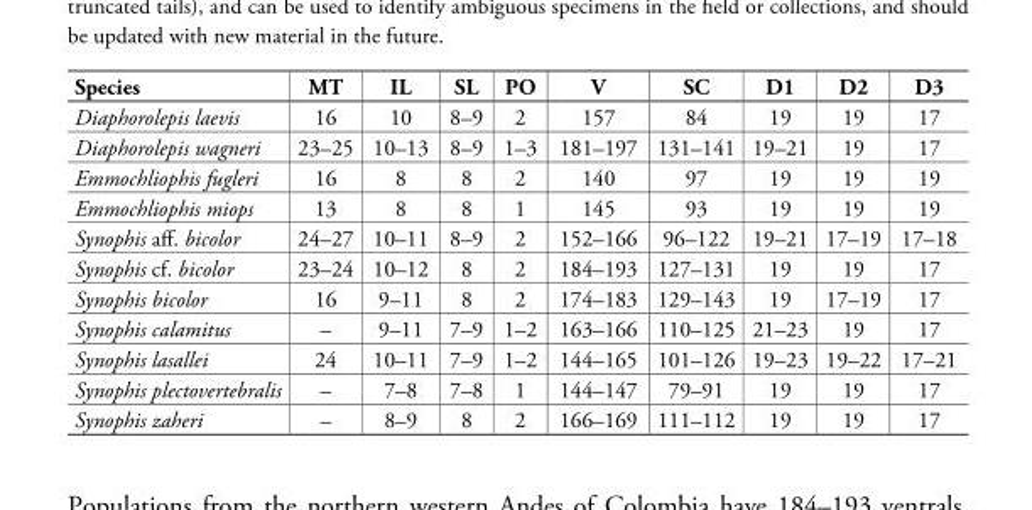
<table><thead><tr><td>Species</td><td>MT</td><td>IL</td><td>SL</td><td>PO</td><td>V</td><td>SC</td><td>D1</td><td>D2</td><td>D3</td></tr></thead><tbody><tr><td>Diaphorolepis laevis</td><td>16</td><td>10</td><td>8–9</td><td>2</td><td>157</td><td>84</td><td>19</td><td>19</td><td>17</td></tr><tr><td>Diaphorolepis wagneri</td><td>23–25</td><td>10–13</td><td>8–9</td><td>1–3</td><td>181–197</td><td>131–141</td><td>19–21</td><td>19</td><td>17</td></tr><tr><td>Emmochliophis fugleri</td><td>16</td><td>8</td><td>8</td><td>2</td><td>140</td><td>97</td><td>19</td><td>19</td><td>19</td></tr><tr><td>Emmochliophis miops</td><td>13</td><td>8</td><td>8</td><td>1</td><td>145</td><td>93</td><td>19</td><td>19</td><td>19</td></tr><tr><td>Synophis aff. bicolor</td><td>24–27</td><td>10–11</td><td>8–9</td><td>2</td><td>152–166</td><td>96–122</td><td>19–21</td><td>17–19</td><td>17–18</td></tr><tr><td>Synophis cf. bicolor</td><td>23–24</td><td>10–12</td><td>8</td><td>2</td><td>184–193</td><td>127–131</td><td>19</td><td>19</td><td>17</td></tr><tr><td>Synophis bicolor</td><td>16</td><td>9–11</td><td>8</td><td>2</td><td>174–183</td><td>129–143</td><td>19</td><td>17–19</td><td>17</td></tr><tr><td>Synophis calamitus</td><td>–</td><td>9–11</td><td>7–9</td><td>1–2</td><td>163–166</td><td>110–125</td><td>21–23</td><td>19</td><td>17</td></tr><tr><td>Synophis lasallei</td><td>24</td><td>10–11</td><td>7–9</td><td>1–2</td><td>144–165</td><td>101–126</td><td>19–23</td><td>19–22</td><td>17–21</td></tr><tr><td>Synophis plectovertebralis</td><td>–</td><td>7–8</td><td>7–8</td><td>1</td><td>144–147</td><td>79–91</td><td>19</td><td>19</td><td>17</td></tr><tr><td>Synophis zaheri</td><td>–</td><td>8–9</td><td>8</td><td>2</td><td>166–169</td><td>111–112</td><td>19</td><td>19</td><td>17</td></tr></tbody></table>